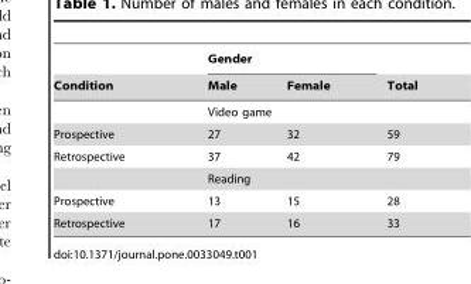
<table><thead><tr><td rowspan="2">Condition</td><td colspan="2">Gender</td><td rowspan="2">Total</td></tr><tr><td>Male</td><td>Female</td></tr></thead><tbody><tr><td></td><td colspan="3">Video game</td></tr><tr><td>Prospective</td><td>27</td><td>32</td><td>59</td></tr><tr><td rowspan="2">Retrospective</td><td>37</td><td>42</td><td>79</td></tr><tr><td colspan="3">Reading</td></tr><tr><td>Prospective</td><td>13</td><td>15</td><td>28</td></tr><tr><td>Retrospective</td><td>17</td><td>16</td><td>33</td></tr></tbody></table>